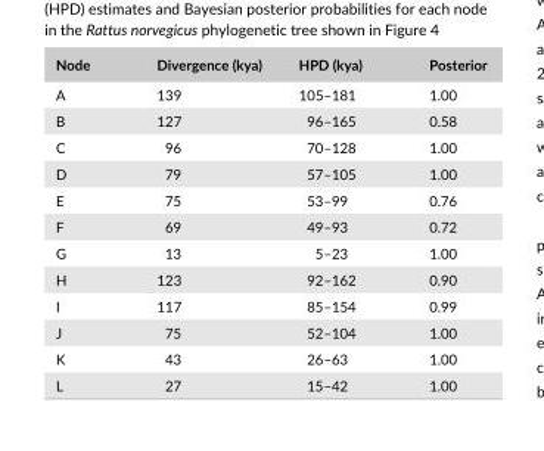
<table><thead><tr><td>Node</td><td>Divergence (kya)</td><td>HPD (kya)</td><td>Posterior</td></tr></thead><tbody><tr><td>A</td><td>139</td><td>105–181</td><td>1.00</td></tr><tr><td>B</td><td>127</td><td>96–165</td><td>0.58</td></tr><tr><td>C</td><td>96</td><td>70–128</td><td>1.00</td></tr><tr><td>D</td><td>79</td><td>57–105</td><td>1.00</td></tr><tr><td>E</td><td>75</td><td>53–99</td><td>0.76</td></tr><tr><td>F</td><td>69</td><td>49–93</td><td>0.72</td></tr><tr><td>G</td><td>13</td><td>5–23</td><td>1.00</td></tr><tr><td>H</td><td>123</td><td>92–162</td><td>0.90</td></tr><tr><td>I</td><td>117</td><td>85–154</td><td>0.99</td></tr><tr><td>J</td><td>75</td><td>52–104</td><td>1.00</td></tr><tr><td>K</td><td>43</td><td>26–63</td><td>1.00</td></tr><tr><td>L</td><td>27</td><td>15–42</td><td>1.00</td></tr></tbody></table>